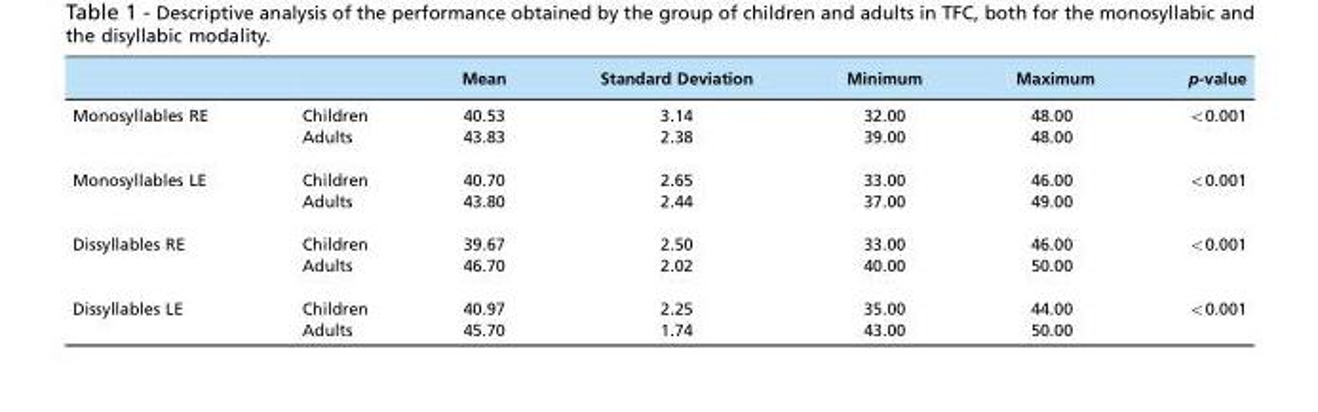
<table><thead><tr><td></td><td></td><td>Mean</td><td>Standard Deviation</td><td>Minimum</td><td>Maximum</td><td>p-value</td></tr></thead><tbody><tr><td rowspan="2">Monosyllables RE</td><td>Children</td><td>40.53</td><td>3.14</td><td>32.00</td><td>48.00</td><td rowspan="2">&lt;0.001</td></tr><tr><td>Adults</td><td>43.83</td><td>2.38</td><td>39.00</td><td>48.00</td></tr><tr><td rowspan="2">Monosyllables LE</td><td>Children</td><td>40.70</td><td>2.65</td><td>33.00</td><td>46.00</td><td rowspan="2">&lt;0.001</td></tr><tr><td>Adults</td><td>43.80</td><td>2.44</td><td>37.00</td><td>49.00</td></tr><tr><td rowspan="2">Dissyllables RE</td><td>Children</td><td>39.67</td><td>2.50</td><td>33.00</td><td>46.00</td><td rowspan="2">&lt;0.001</td></tr><tr><td>Adults</td><td>46.70</td><td>2.02</td><td>40.00</td><td>50.00</td></tr><tr><td rowspan="2">Dissyllables LE</td><td>Children</td><td>40.97</td><td>2.25</td><td>35.00</td><td>44.00</td><td rowspan="2">&lt;0.001</td></tr><tr><td>Adults</td><td>45.70</td><td>1.74</td><td>43.00</td><td>50.00</td></tr></tbody></table>